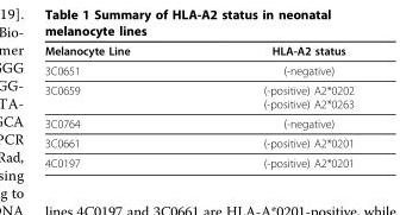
<table><thead><tr><td>Melanocyte Line</td><td>HLA-A2 status</td></tr></thead><tbody><tr><td>3C0651</td><td>(-negative)</td></tr><tr><td>3C0659</td><td>(-positive) A2*0202 (-positive) A2*0263</td></tr><tr><td>3C0764</td><td>(-negative)</td></tr><tr><td>3C0661</td><td>(-positive) A2*0201</td></tr><tr><td>4C0197</td><td>(-positive) A2*0201</td></tr></tbody></table>